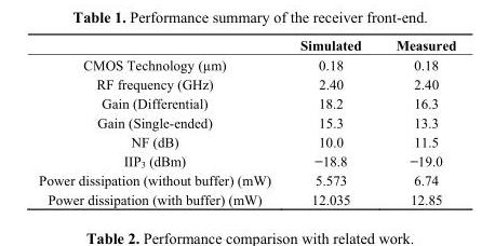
<table><thead><tr><td></td><td>Simulated</td><td>Measured</td></tr></thead><tbody><tr><td>CMOS Technology (µm)</td><td>0.18</td><td>0.18</td></tr><tr><td>RF frequency (GHz)</td><td>2.40</td><td>2.40</td></tr><tr><td>Gain (Differential)</td><td>18.2</td><td>16.3</td></tr><tr><td>Gain (Single-ended)</td><td>15.3</td><td>13.3</td></tr><tr><td>NF (dB)</td><td>10.0</td><td>11.5</td></tr><tr><td>IIP<sub>3</sub> (dBm)</td><td>−18.8</td><td>−19.0</td></tr><tr><td>Power dissipation (without buffer) (mW)</td><td>5.573</td><td>6.74</td></tr><tr><td>Power dissipation (with buffer) (mW)</td><td>12.035</td><td>12.85</td></tr></tbody></table>